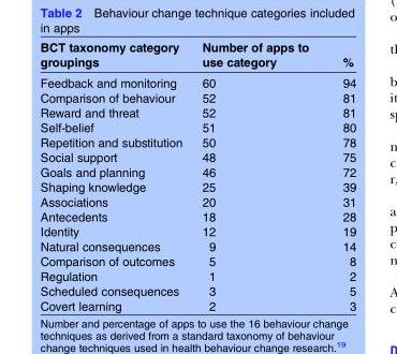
<table><thead><tr><td>BCT taxonomy category groupings</td><td>Number of apps to use category</td><td>%</td></tr></thead><tbody><tr><td>Feedback and monitoring</td><td>60</td><td>94</td></tr><tr><td>Comparison of behaviour</td><td>52</td><td>81</td></tr><tr><td>Reward and threat</td><td>52</td><td>81</td></tr><tr><td>Self-belief</td><td>51</td><td>80</td></tr><tr><td>Repetition and substitution</td><td>50</td><td>78</td></tr><tr><td>Social support</td><td>48</td><td>75</td></tr><tr><td>Goals and planning</td><td>46</td><td>72</td></tr><tr><td>Shaping knowledge</td><td>25</td><td>39</td></tr><tr><td>Associations</td><td>20</td><td>31</td></tr><tr><td>Antecedents</td><td>18</td><td>28</td></tr><tr><td>Identity</td><td>12</td><td>19</td></tr><tr><td>Natural consequences</td><td>9</td><td>14</td></tr><tr><td>Comparison of outcomes</td><td>5</td><td>8</td></tr><tr><td>Regulation</td><td>1</td><td>2</td></tr><tr><td>Scheduled consequences</td><td>3</td><td>5</td></tr><tr><td>Covert learning</td><td>2</td><td>3</td></tr></tbody></table>